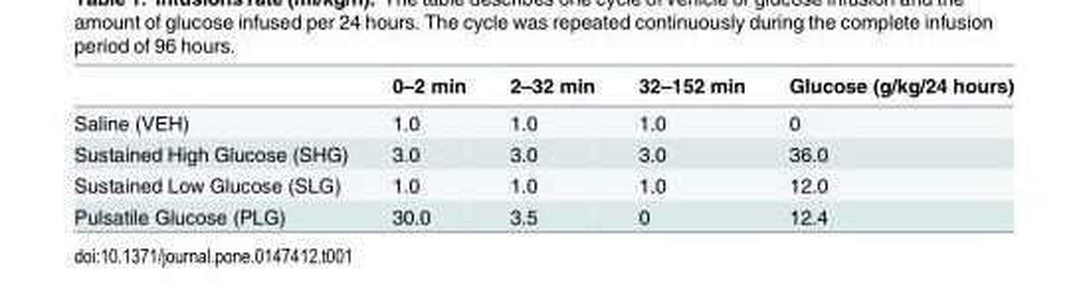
<table><thead><tr><td></td><td>0–2 min</td><td>2–32 min</td><td>32–152 min</td><td>Glucose (g/kg/24 hours)</td></tr></thead><tbody><tr><td>Saline (VEH)</td><td>1.0</td><td>1.0</td><td>1.0</td><td>0</td></tr><tr><td>Sustained High Glucose (SHG)</td><td>3.0</td><td>3.0</td><td>3.0</td><td>36.0</td></tr><tr><td>Sustained Low Glucose (SLG)</td><td>1.0</td><td>1.0</td><td>1.0</td><td>12.0</td></tr><tr><td>Pulsatile Glucose (PLG)</td><td>30.0</td><td>3.5</td><td>0</td><td>12.4</td></tr></tbody></table>